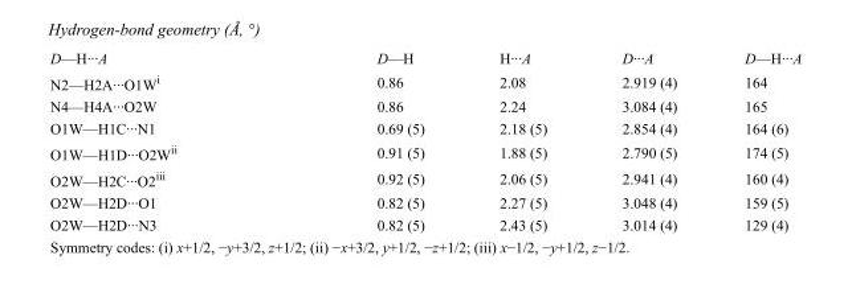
<table><tbody><tr><td>D—H···A</td><td>D—H</td><td>H···A</td><td>D···A</td><td>D—H···A</td></tr><tr><td>N2—H2A···O1W<sup>i</sup></td><td>0.86</td><td>2.08</td><td>2.919 (4)</td><td>164</td></tr><tr><td>N4—H4A···O2W</td><td>0.86</td><td>2.24</td><td>3.084 (4)</td><td>165</td></tr><tr><td>O1W—H1C···N1</td><td>0.69 (5)</td><td>2.18 (5)</td><td>2.854 (4)</td><td>164 (6)</td></tr><tr><td>O1W—H1D···O2W<sup>ii</sup></td><td>0.91 (5)</td><td>1.88 (5)</td><td>2.790 (5)</td><td>174 (5)</td></tr><tr><td>O2W—H2C···O2<sup>iii</sup></td><td>0.92 (5)</td><td>2.06 (5)</td><td>2.941 (4)</td><td>160 (4)</td></tr><tr><td>O2W—H2D···O1</td><td>0.82 (5)</td><td>2.27 (5)</td><td>3.048 (4)</td><td>159 (5)</td></tr><tr><td>O2W—H2D···N3</td><td>0.82 (5)</td><td>2.43 (5)</td><td>3.014 (4)</td><td>129 (4)</td></tr></tbody></table>